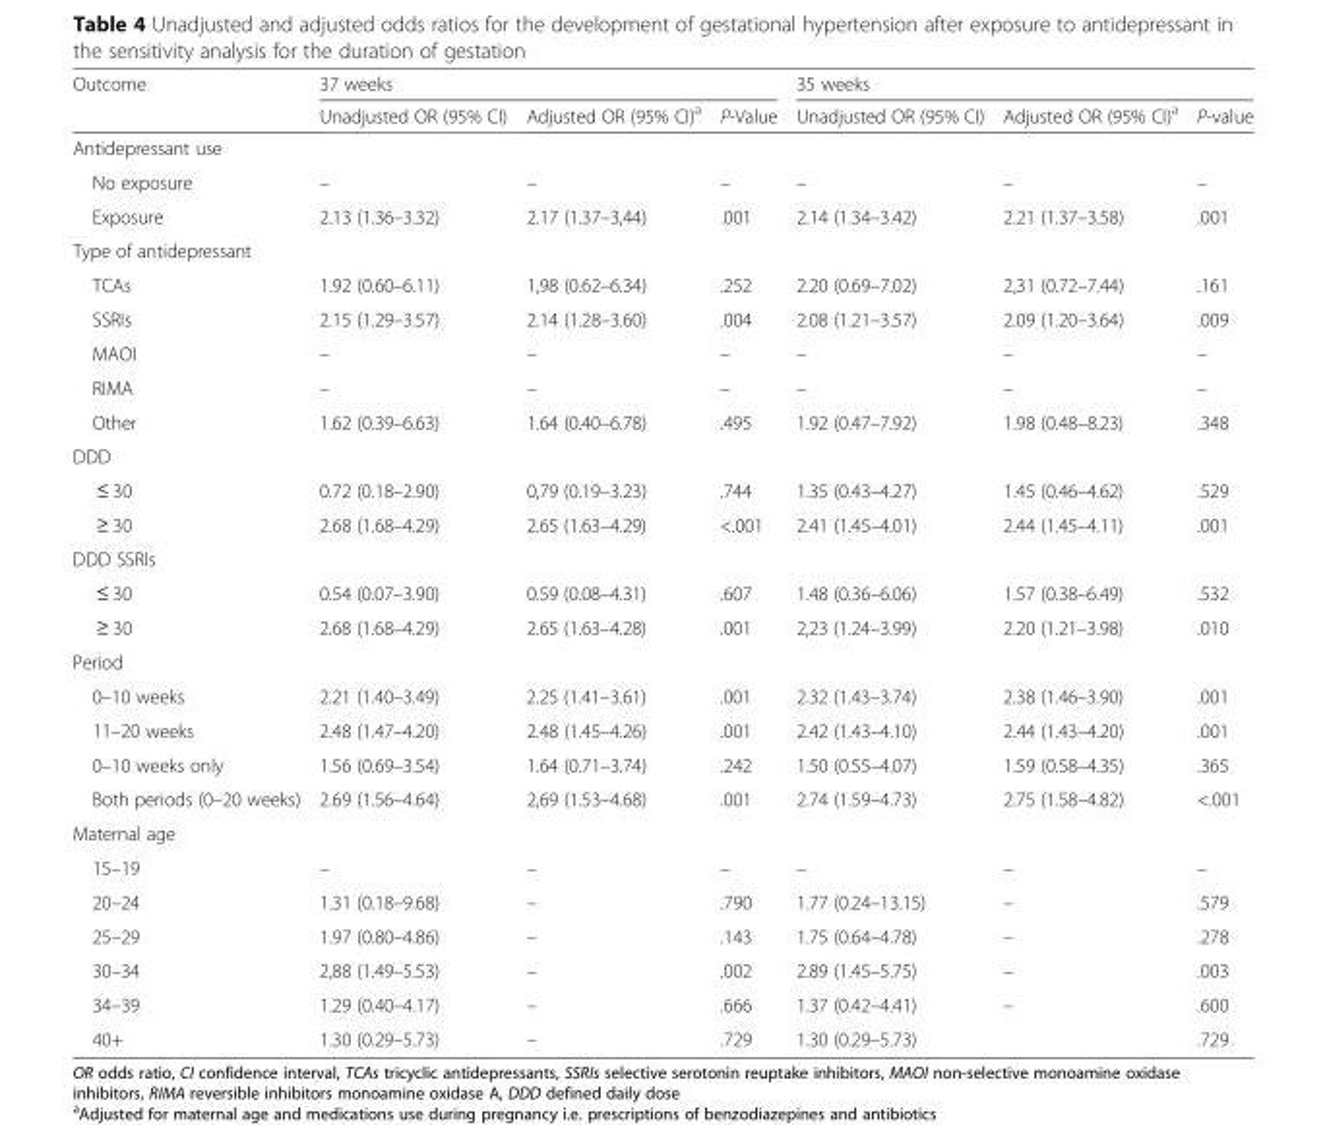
<table><thead><tr><td rowspan="2">Outcome</td><td colspan="3">37 weeks</td><td colspan="3">35 weeks</td></tr><tr><td>Unadjusted OR (95% CI)</td><td>Adjusted OR (95% CI)<sup>a</sup></td><td>P-Value</td><td>Unadjusted OR (95% CI)</td><td>Adjusted OR (95% CI)<sup>a</sup></td><td>P-value</td></tr></thead><tbody><tr><td colspan="7">Antidepressant use</td></tr><tr><td>No exposure</td><td>–</td><td>–</td><td>–</td><td>–</td><td>–</td><td>–</td></tr><tr><td>Exposure</td><td>2.13 (1.36–3.32)</td><td>2.17 (1.37–3,44)</td><td>.001</td><td>2.14 (1.34–3.42)</td><td>2.21 (1.37–3.58)</td><td>.001</td></tr><tr><td colspan="7">Type of antidepressant</td></tr><tr><td>TCAs</td><td>1.92 (0.60–6.11)</td><td>1,98 (0.62–6.34)</td><td>.252</td><td>2.20 (0.69–7.02)</td><td>2,31 (0.72–7.44)</td><td>.161</td></tr><tr><td>SSRIs</td><td>2.15 (1.29–3.57)</td><td>2.14 (1.28–3.60)</td><td>.004</td><td>2.08 (1.21–3.57)</td><td>2.09 (1.20–3.64)</td><td>.009</td></tr><tr><td>MAOI</td><td>–</td><td>–</td><td>–</td><td>–</td><td>–</td><td>–</td></tr><tr><td>RIMA</td><td>–</td><td>–</td><td>–</td><td>–</td><td>–</td><td>–</td></tr><tr><td>Other</td><td>1.62 (0.39–6.63)</td><td>1.64 (0.40–6.78)</td><td>.495</td><td>1.92 (0.47–7.92)</td><td>1.98 (0.48–8.23)</td><td>.348</td></tr><tr><td colspan="7">DDD</td></tr><tr><td>≤ 30</td><td>0.72 (0.18–2.90)</td><td>0,79 (0.19–3.23)</td><td>.744</td><td>1.35 (0.43–4.27)</td><td>1.45 (0.46–4.62)</td><td>.529</td></tr><tr><td>≥ 30</td><td>2.68 (1.68–4.29)</td><td>2.65 (1.63–4.29)</td><td>&lt;.001</td><td>2.41 (1.45–4.01)</td><td>2.44 (1.45–4.11)</td><td>.001</td></tr><tr><td colspan="7">DDD SSRIs</td></tr><tr><td>≤ 30</td><td>0.54 (0.07–3.90)</td><td>0.59 (0.08–4.31)</td><td>.607</td><td>1.48 (0.36–6.06)</td><td>1.57 (0.38–6.49)</td><td>.532</td></tr><tr><td>≥ 30</td><td>2.68 (1.68–4.29)</td><td>2.65 (1.63–4.28)</td><td>.001</td><td>2,23 (1.24–3.99)</td><td>2.20 (1.21–3.98)</td><td>.010</td></tr><tr><td colspan="7">Period</td></tr><tr><td>0–10 weeks</td><td>2.21 (1.40–3.49)</td><td>2.25 (1.41–3.61)</td><td>.001</td><td>2.32 (1.43–3.74)</td><td>2.38 (1.46–3.90)</td><td>.001</td></tr><tr><td>11–20 weeks</td><td>2.48 (1.47–4.20)</td><td>2.48 (1.45–4.26)</td><td>.001</td><td>2.42 (1.43–4.10)</td><td>2.44 (1.43–4.20)</td><td>.001</td></tr><tr><td>0–10 weeks only</td><td>1.56 (0.69–3.54)</td><td>1.64 (0.71–3.74)</td><td>.242</td><td>1.50 (0.55–4.07)</td><td>1.59 (0.58–4.35)</td><td>.365</td></tr><tr><td>Both periods (0–20 weeks)</td><td>2.69 (1.56–4.64)</td><td>2,69 (1.53–4.68)</td><td>.001</td><td>2.74 (1.59–4.73)</td><td>2.75 (1.58–4.82)</td><td>&lt;.001</td></tr><tr><td colspan="7">Maternal age</td></tr><tr><td>15–19</td><td>–</td><td>–</td><td>–</td><td>–</td><td>–</td><td>–</td></tr><tr><td>20–24</td><td>1.31 (0.18–9.68)</td><td>–</td><td>.790</td><td>1.77 (0.24–13.15)</td><td>–</td><td>.579</td></tr><tr><td>25–29</td><td>1.97 (0.80–4.86)</td><td>–</td><td>.143</td><td>1.75 (0.64–4.78)</td><td>–</td><td>.278</td></tr><tr><td>30–34</td><td>2,88 (1.49–5.53)</td><td>–</td><td>.002</td><td>2.89 (1.45–5.75)</td><td>–</td><td>.003</td></tr><tr><td>34–39</td><td>1.29 (0.40–4.17)</td><td>–</td><td>.666</td><td>1.37 (0.42–4.41)</td><td>–</td><td>.600</td></tr><tr><td>40+</td><td>1.30 (0.29–5.73)</td><td>–</td><td>.729</td><td>1.30 (0.29–5.73)</td><td></td><td>.729</td></tr></tbody></table>